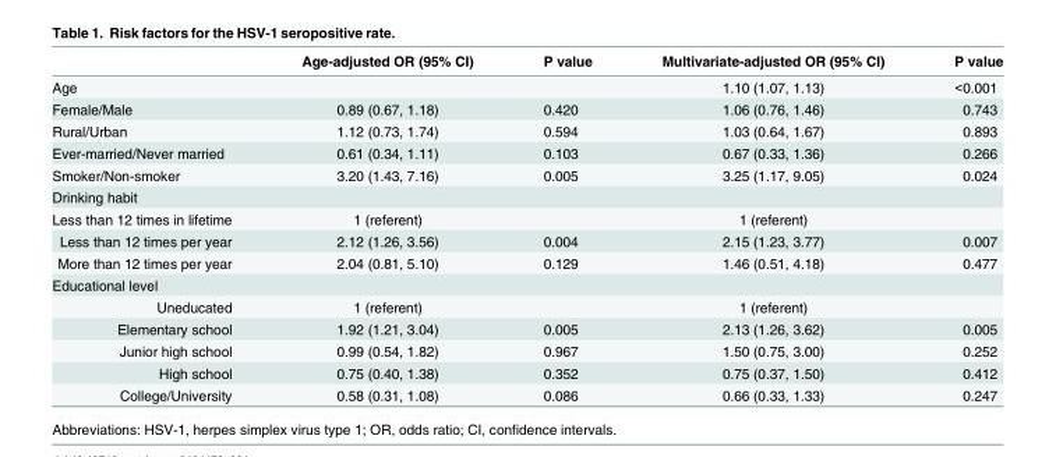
<table><thead><tr><td></td><td>Age-adjusted OR (95% CI)</td><td>P value</td><td>Multivariate-adjusted OR (95% CI)</td><td>P value</td></tr></thead><tbody><tr><td>Age</td><td></td><td></td><td>1.10 (1.07, 1.13)</td><td>&lt;0.001</td></tr><tr><td>Female/Male</td><td>0.89 (0.67, 1.18)</td><td>0.420</td><td>1.06 (0.76, 1.46)</td><td>0.743</td></tr><tr><td>Rural/Urban</td><td>1.12 (0.73, 1.74)</td><td>0.594</td><td>1.03 (0.64, 1.67)</td><td>0.893</td></tr><tr><td>Ever-married/Never married</td><td>0.61 (0.34, 1.11)</td><td>0.103</td><td>0.67 (0.33, 1.36)</td><td>0.266</td></tr><tr><td>Smoker/Non-smoker</td><td>3.20 (1.43, 7.16)</td><td>0.005</td><td>3.25 (1.17, 9.05)</td><td>0.024</td></tr><tr><td colspan="5">Drinking habit</td></tr><tr><td>Less than 12 times in lifetime</td><td>1 (referent)</td><td></td><td>1 (referent)</td><td></td></tr><tr><td>Less than 12 times per year</td><td>2.12 (1.26, 3.56)</td><td>0.004</td><td>2.15 (1.23, 3.77)</td><td>0.007</td></tr><tr><td>More than 12 times per year</td><td>2.04 (0.81, 5.10)</td><td>0.129</td><td>1.46 (0.51, 4.18)</td><td>0.477</td></tr><tr><td colspan="5">Educational level</td></tr><tr><td>Uneducated</td><td>1 (referent)</td><td></td><td>1 (referent)</td><td></td></tr><tr><td>Elementary school</td><td>1.92 (1.21, 3.04)</td><td>0.005</td><td>2.13 (1.26, 3.62)</td><td>0.005</td></tr><tr><td>Junior high school</td><td>0.99 (0.54, 1.82)</td><td>0.967</td><td>1.50 (0.75, 3.00)</td><td>0.252</td></tr><tr><td>High school</td><td>0.75 (0.40, 1.38)</td><td>0.352</td><td>0.75 (0.37, 1.50)</td><td>0.412</td></tr><tr><td>College/University</td><td>0.58 (0.31, 1.08)</td><td>0.086</td><td>0.66 (0.33, 1.33)</td><td>0.247</td></tr></tbody></table>